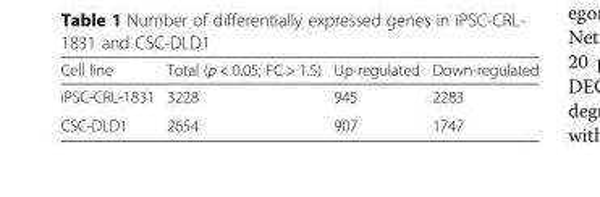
<table><thead><tr><td>Cell line</td><td>Total (p &lt; 0.05; FC &gt; 1.5)</td><td>Up-regulated</td><td>Down-regulated</td></tr></thead><tbody><tr><td>iPSC-CRL-1831</td><td>3228</td><td>945</td><td>2283</td></tr><tr><td>CSC-DLD1</td><td>2654</td><td>907</td><td>1747</td></tr></tbody></table>